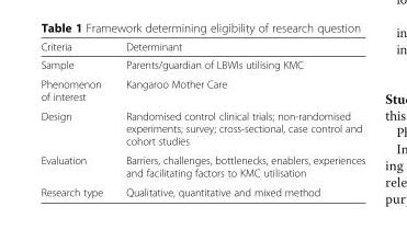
<table><thead><tr><td>Criteria</td><td>Determinant</td></tr></thead><tbody><tr><td>Sample</td><td>Parents/guardian of LBWIs utilising KMC</td></tr><tr><td>Phenomenon of interest</td><td>Kangaroo Mother Care</td></tr><tr><td>Design</td><td>Randomised control clinical trials; non-randomised experiments; survey; cross-sectional, case control and cohort studies</td></tr><tr><td>Evaluation</td><td>Barriers, challenges, bottlenecks, enablers, experiences and facilitating factors to KMC utilisation</td></tr><tr><td>Research type</td><td>Qualitative, quantitative and mixed method</td></tr></tbody></table>